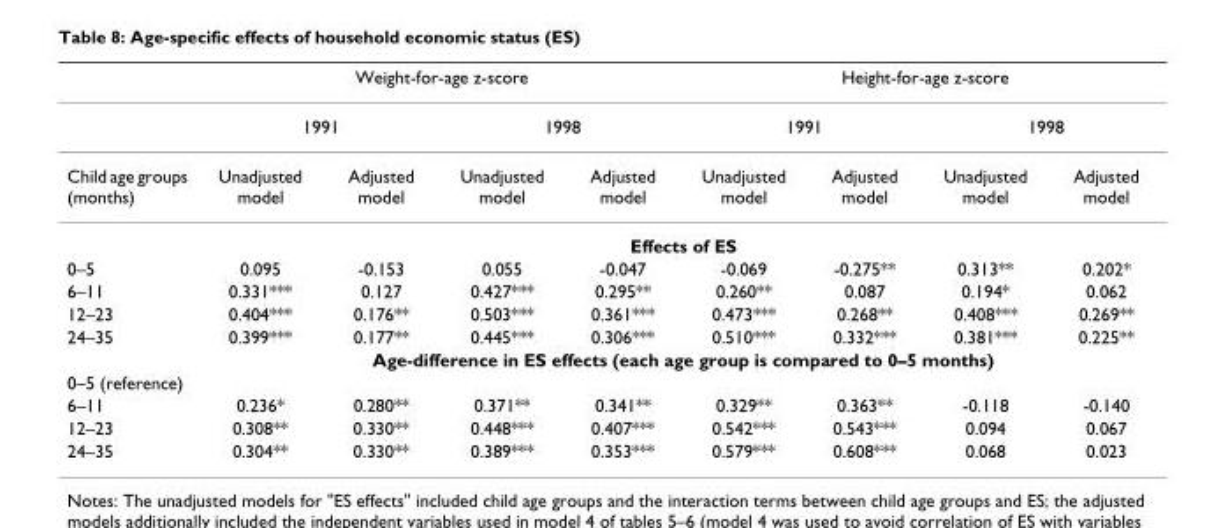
<table><thead><tr><td rowspan="3">Child age groups (months)</td><td colspan="4">Weight-for-age z-score</td><td colspan="4">Height-for-age z-score</td></tr><tr><td colspan="2">1991</td><td colspan="2">1998</td><td colspan="2">1991</td><td colspan="2">1998</td></tr><tr><td>Unadjusted model</td><td>Adjusted model</td><td>Unadjusted model</td><td>Adjusted model</td><td>Unadjusted model</td><td>Adjusted model</td><td>Unadjusted model</td><td>Adjusted model</td></tr></thead><tbody><tr><td></td><td colspan="8">Effects of ES</td></tr><tr><td>0–5</td><td>0.095</td><td>-0.153</td><td>0.055</td><td>-0.047</td><td>-0.069</td><td>-0.275**</td><td>0.313**</td><td>0.202*</td></tr><tr><td>6–11</td><td>0.331***</td><td>0.127</td><td>0.427***</td><td>0.295**</td><td>0.260**</td><td>0.087</td><td>0.194*</td><td>0.062</td></tr><tr><td>12–23</td><td>0.404***</td><td>0.176**</td><td>0.503***</td><td>0.361***</td><td>0.473***</td><td>0.268**</td><td>0.408***</td><td>0.269**</td></tr><tr><td rowspan="2">24–35</td><td>0.399***</td><td>0.177**</td><td>0.445***</td><td>0.306***</td><td>0.510***</td><td>0.332***</td><td>0.381***</td><td>0.225**</td></tr><tr><td colspan="8">Age-difference in ES effects (each age group is compared to 0–5 months)</td></tr><tr><td colspan="9">0–5 (reference)</td></tr><tr><td>6–11</td><td>0.236*</td><td>0.280**</td><td>0.371**</td><td>0.341**</td><td>0.329**</td><td>0.363**</td><td>-0.118</td><td>-0.140</td></tr><tr><td>12–23</td><td>0.308**</td><td>0.330**</td><td>0.448***</td><td>0.407***</td><td>0.542***</td><td>0.543***</td><td>0.094</td><td>0.067</td></tr><tr><td>24–35</td><td>0.304**</td><td>0.330**</td><td>0.389***</td><td>0.353***</td><td>0.579***</td><td>0.608***</td><td>0.068</td><td>0.023</td></tr></tbody></table>